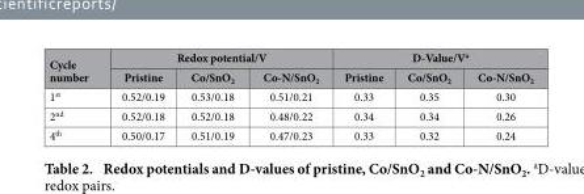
<table><thead><tr><td rowspan="2">Cycle number</td><td colspan="3">Redox potential/V</td><td colspan="3">D-Value/V<sup>a</sup></td></tr><tr><td>Pristine</td><td>Co/SnO<sub>2</sub></td><td>Co-N/SnO<sub>2</sub></td><td>Pristine</td><td>Co/SnO<sub>2</sub></td><td>Co-N/SnO<sub>2</sub></td></tr></thead><tbody><tr><td>1<sup>st</sup></td><td>0.52/0.19</td><td>0.53/0.18</td><td>0.51/0.21</td><td>0.33</td><td>0.35</td><td>0.30</td></tr><tr><td>2<sup>nd</sup></td><td>0.52/0.18</td><td>0.52/0.18</td><td>0.48/0.22</td><td>0.34</td><td>0.34</td><td>0.26</td></tr><tr><td>4<sup>th</sup></td><td>0.50/0.17</td><td>0.51/0.19</td><td>0.47/0.23</td><td>0.33</td><td>0.32</td><td>0.24</td></tr></tbody></table>